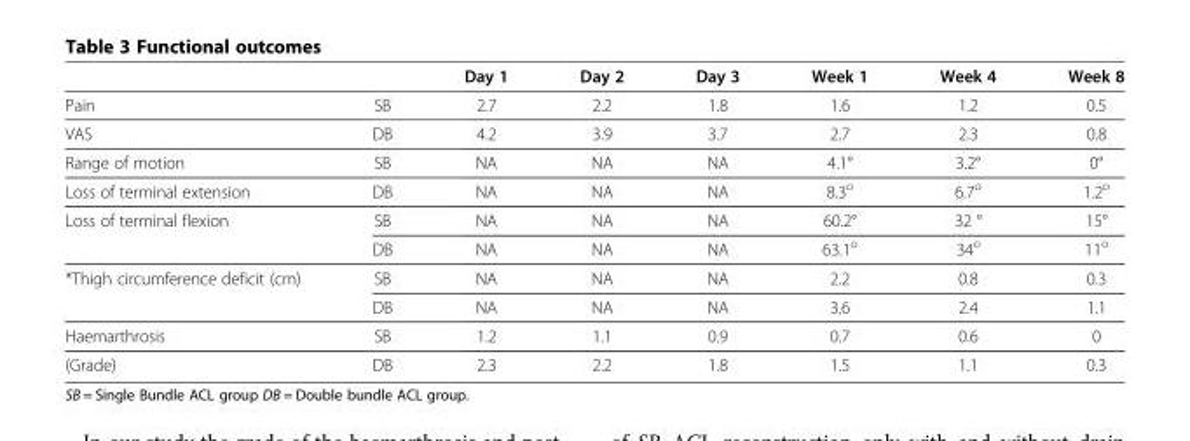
<table><thead><tr><td></td><td></td><td>Day 1</td><td>Day 2</td><td>Day 3</td><td>Week 1</td><td>Week 4</td><td>Week 8</td></tr></thead><tbody><tr><td>Pain</td><td>SB</td><td>2.7</td><td>2.2</td><td>1.8</td><td>1.6</td><td>1.2</td><td>0.5</td></tr><tr><td>VAS</td><td>DB</td><td>4.2</td><td>3.9</td><td>3.7</td><td>2.7</td><td>2.3</td><td>0.8</td></tr><tr><td>Range of motion</td><td>SB</td><td>NA</td><td>NA</td><td>NA</td><td>4.1°</td><td>3.2°</td><td>0°</td></tr><tr><td>Loss of terminal extension</td><td>DB</td><td>NA</td><td>NA</td><td>NA</td><td>8.3<sup>o</sup></td><td>6.7<sup>o</sup></td><td>1.2<sup>o</sup></td></tr><tr><td rowspan="2">Loss of terminal flexion</td><td>SB</td><td>NA</td><td>NA</td><td>NA</td><td>60.2°</td><td>32 °</td><td>15°</td></tr><tr><td>DB</td><td>NA</td><td>NA</td><td>NA</td><td>63.1<sup>o</sup></td><td>34<sup>o</sup></td><td>11<sup>o</sup></td></tr><tr><td rowspan="2">*Thigh circumference deficit (cm)</td><td>SB</td><td>NA</td><td>NA</td><td>NA</td><td>2.2</td><td>0.8</td><td>0.3</td></tr><tr><td>DB</td><td>NA</td><td>NA</td><td>NA</td><td>3.6</td><td>2.4</td><td>1.1</td></tr><tr><td>Haemarthrosis</td><td>SB</td><td>1.2</td><td>1.1</td><td>0.9</td><td>0.7</td><td>0.6</td><td>0</td></tr><tr><td>(Grade)</td><td>DB</td><td>2.3</td><td>2.2</td><td>1.8</td><td>1.5</td><td>1.1</td><td>0.3</td></tr></tbody></table>